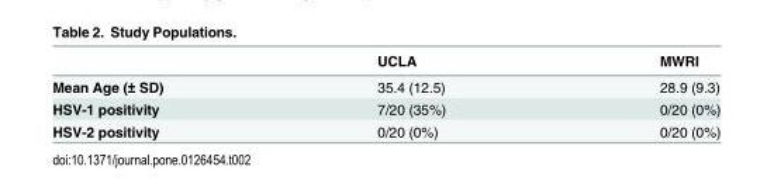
<table><thead><tr><td></td><td>UCLA</td><td>MWRI</td></tr></thead><tbody><tr><td>Mean Age (± SD)</td><td>35.4 (12.5)</td><td>28.9 (9.3)</td></tr><tr><td>HSV-1 positivity</td><td>7/20 (35%)</td><td>0/20 (0%)</td></tr><tr><td>HSV-2 positivity</td><td>0/20 (0%)</td><td>0/20 (0%)</td></tr></tbody></table>